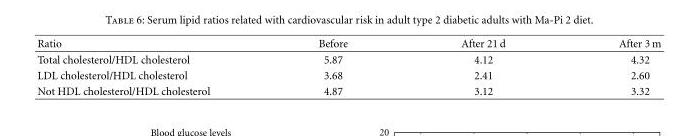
<table><thead><tr><td>Ratio</td><td>Before</td><td>After 21 d</td><td>After 3 m</td></tr></thead><tbody><tr><td>Total cholesterol/HDL cholesterol</td><td>5.87</td><td>4.12</td><td>4.32</td></tr><tr><td>LDL cholesterol/HDL cholesterol</td><td>3.68</td><td>2.41</td><td>2.60</td></tr><tr><td>Not HDL cholesterol/HDL cholesterol</td><td>4.87</td><td>3.12</td><td>3.32</td></tr></tbody></table>